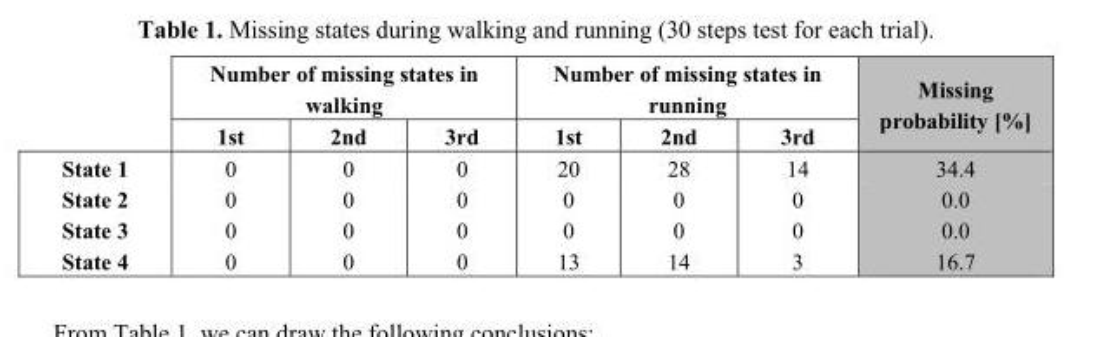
<table><thead><tr><td rowspan="2"></td><td colspan="3">Number of missing states in walking</td><td colspan="3">Number of missing states in running</td><td rowspan="2">Missing probability [%]</td></tr><tr><td>1st</td><td>2nd</td><td>3rd</td><td>1st</td><td>2nd</td><td>3rd</td></tr></thead><tbody><tr><td>State 1</td><td>0</td><td>0</td><td>0</td><td>20</td><td>28</td><td>14</td><td>34.4</td></tr><tr><td>State 2</td><td>0</td><td>0</td><td>0</td><td>0</td><td>0</td><td>0</td><td>0.0</td></tr><tr><td>State 3</td><td>0</td><td>0</td><td>0</td><td>0</td><td>0</td><td>0</td><td>0.0</td></tr><tr><td>State 4</td><td>0</td><td>0</td><td>0</td><td>13</td><td>14</td><td>3</td><td>16.7</td></tr></tbody></table>